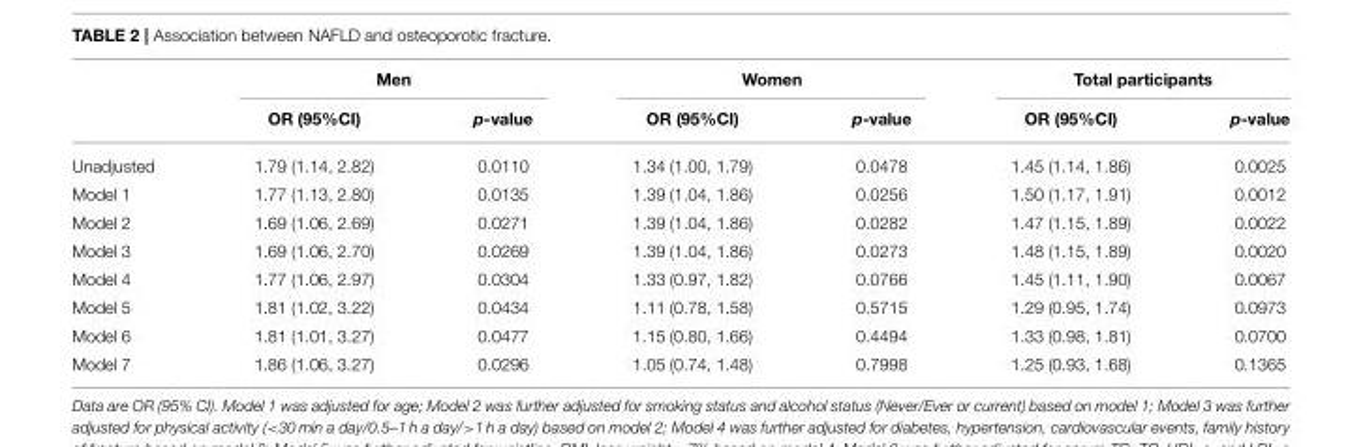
<table><thead><tr><td rowspan="2"></td><td colspan="2">Men</td><td colspan="2">Women</td><td colspan="2">Total participants</td></tr><tr><td>OR (95%CI)</td><td>p-value</td><td>OR (95%CI)</td><td>p-value</td><td>OR (95%CI)</td><td>p-value</td></tr></thead><tbody><tr><td>Unadjusted</td><td>1.79 (1.14, 2.82)</td><td>0.0110</td><td>1.34 (1.00, 1.79)</td><td>0.0478</td><td>1.45 (1.14, 1.86)</td><td>0.0025</td></tr><tr><td>Model 1</td><td>1.77 (1.13, 2.80)</td><td>0.0135</td><td>1.39 (1.04, 1.86)</td><td>0.0256</td><td>1.50 (1.17, 1.91)</td><td>0.0012</td></tr><tr><td>Model 2</td><td>1.69 (1.06, 2.69)</td><td>0.0271</td><td>1.39 (1.04, 1.86)</td><td>0.0282</td><td>1.47 (1.15, 1.89)</td><td>0.0022</td></tr><tr><td>Model 3</td><td>1.69 (1.06, 2.70)</td><td>0.0269</td><td>1.39 (1.04, 1.86)</td><td>0.0273</td><td>1.48 (1.15, 1.89)</td><td>0.0020</td></tr><tr><td>Model 4</td><td>1.77 (1.06, 2.97)</td><td>0.0304</td><td>1.33 (0.97, 1.82)</td><td>0.0766</td><td>1.45 (1.11, 1.90)</td><td>0.0067</td></tr><tr><td>Model 5</td><td>1.81 (1.02, 3.22)</td><td>0.0434</td><td>1.11 (0.78, 1.58)</td><td>0.5715</td><td>1.29 (0.95, 1.74)</td><td>0.0973</td></tr><tr><td>Model 6</td><td>1.81 (1.01, 3.27)</td><td>0.0477</td><td>1.15 (0.80, 1.66)</td><td>0.4494</td><td>1.33 (0.98, 1.81)</td><td>0.0700</td></tr><tr><td>Model 7</td><td>1.86 (1.06, 3.27)</td><td>0.0296</td><td>1.05 (0.74, 1.48)</td><td>0.7998</td><td>1.25 (0.93, 1.68)</td><td>0.1365</td></tr></tbody></table>